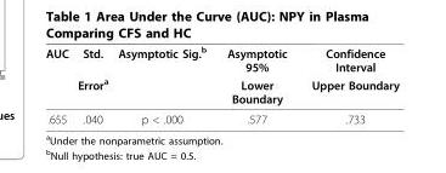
<table><thead><tr><td rowspan="2">AUC</td><td rowspan="2">Std. Error<sup>a</sup></td><td rowspan="2">Asymptotic Sig.<sup>b</sup></td><td rowspan="2">Asymptotic 95% Lower Boundary</td><td rowspan="2">Confidence Interval Upper Boundary</td></tr><tr></tr></thead><tbody><tr><td>.655</td><td>.040</td><td>p &lt; .000</td><td>.577</td><td>.733</td></tr></tbody></table>